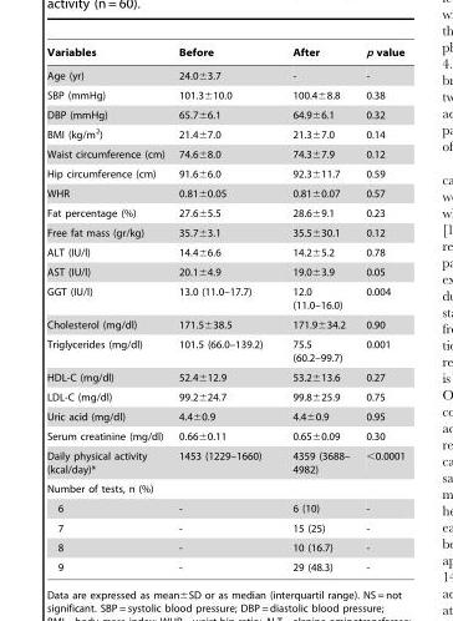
<table><thead><tr><td>Variables</td><td>Before</td><td>After</td><td>p value</td></tr></thead><tbody><tr><td>Age (yr)</td><td>24.0±3.7</td><td>-</td><td>-</td></tr><tr><td>SBP (mmHg)</td><td>101.3±10.0</td><td>100.4±8.8</td><td>0.38</td></tr><tr><td>DBP (mmHg)</td><td>65.7±6.1</td><td>64.9±6.1</td><td>0.32</td></tr><tr><td>BMI (kg/m<sup>2</sup>)</td><td>21.4±7.0</td><td>21.3±7.0</td><td>0.14</td></tr><tr><td>Waist circumference (cm)</td><td>74.6±8.0</td><td>74.3±7.9</td><td>0.12</td></tr><tr><td>Hip circumference (cm)</td><td>91.6±6.0</td><td>92.3±11.7</td><td>0.59</td></tr><tr><td>WHR</td><td>0.81±0.05</td><td>0.81±0.07</td><td>0.57</td></tr><tr><td>Fat percentage (%)</td><td>27.6±5.5</td><td>28.6±9.1</td><td>0.23</td></tr><tr><td>Free fat mass (gr/kg)</td><td>35.7±3.1</td><td>35.5±30.1</td><td>0.12</td></tr><tr><td>ALT (IU/l)</td><td>14.4±6.6</td><td>14.2±5.2</td><td>0.78</td></tr><tr><td>AST (IU/l)</td><td>20.1±4.9</td><td>19.0±3.9</td><td>0.05</td></tr><tr><td>GGT (IU/l)</td><td>13.0 (11.0–17.7)</td><td>12.0 (11.0–16.0)</td><td>0.004</td></tr><tr><td>Cholesterol (mg/dl)</td><td>171.5±38.5</td><td>171.9±34.2</td><td>0.90</td></tr><tr><td>Triglycerides (mg/dl)</td><td>101.5 (66.0–139.2)</td><td>75.5 (60.2–99.7)</td><td>0.001</td></tr><tr><td>HDL-C (mg/dl)</td><td>52.4±12.9</td><td>53.2±13.6</td><td>0.27</td></tr><tr><td>LDL-C (mg/dl)</td><td>99.2±24.7</td><td>99.8±25.9</td><td>0.75</td></tr><tr><td>Uric acid (mg/dl)</td><td>4.4±0.9</td><td>4.4±0.9</td><td>0.95</td></tr><tr><td>Serum creatinine (mg/dl)</td><td>0.66±0.11</td><td>0.65±0.09</td><td>0.30</td></tr><tr><td>Daily physical activity (kcal/day)*</td><td>1453 (1229–1660)</td><td>4359 (3688– 4982)</td><td>&lt;0.0001</td></tr><tr><td colspan="4">Number of tests, n (%)</td></tr><tr><td>6</td><td>-</td><td>6 (10)</td><td>-</td></tr><tr><td>7</td><td>-</td><td>15 (25)</td><td>-</td></tr><tr><td>8</td><td>-</td><td>10 (16.7)</td><td>-</td></tr><tr><td>9</td><td>-</td><td>29 (48.3)</td><td>-</td></tr></tbody></table>